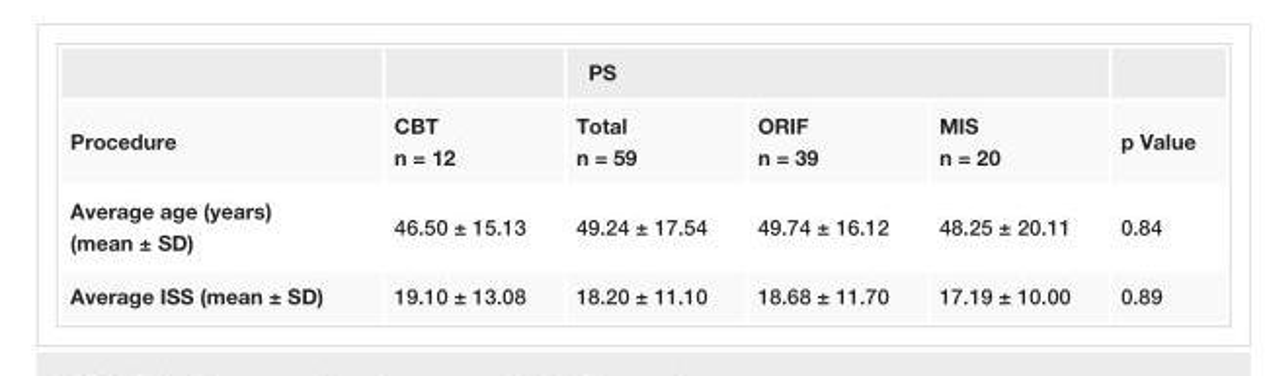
<table><thead><tr><td rowspan="2">Procedure</td><td rowspan="2">CBT n = 12</td><td colspan="3">PS</td><td rowspan="2">p Value</td></tr><tr><td>Total n = 59</td><td>ORIF n = 39</td><td>MIS n = 20</td></tr></thead><tbody><tr><td>Average age (years) (mean ± SD)</td><td>46.50 ± 15.13</td><td>49.24 ± 17.54</td><td>49.74 ± 16.12</td><td>48.25 ± 20.11</td><td>0.84</td></tr><tr><td>Average ISS (mean ± SD)</td><td>19.10 ± 13.08</td><td>18.20 ± 11.10</td><td>18.68 ± 11.70</td><td>17.19 ± 10.00</td><td>0.89</td></tr></tbody></table>